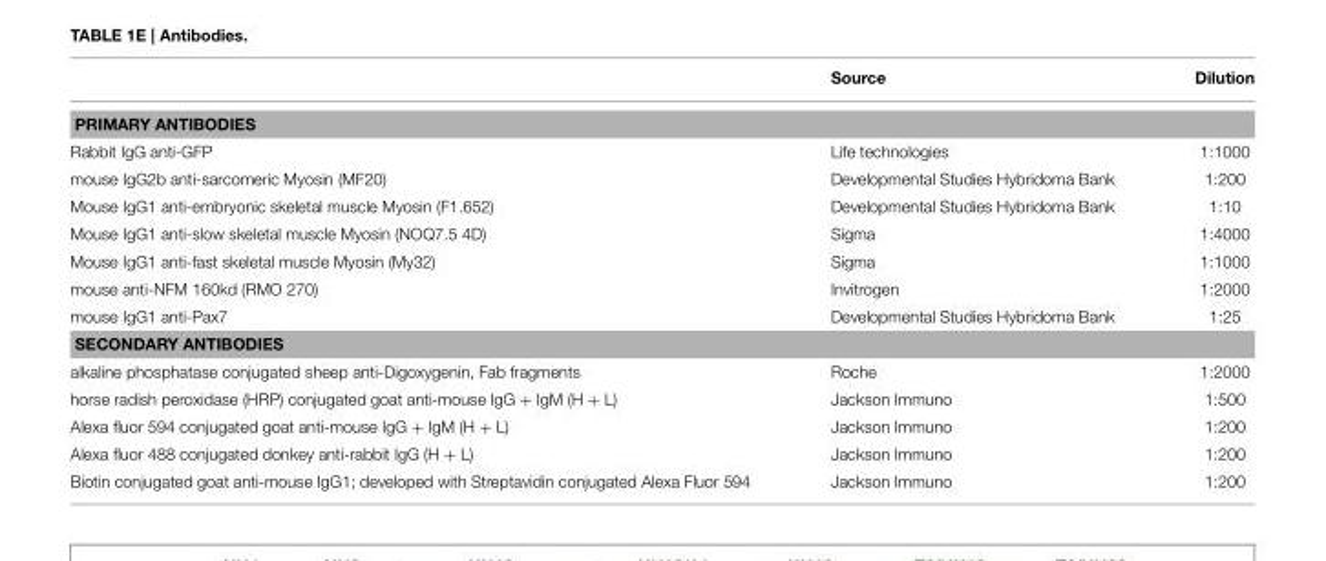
<table><thead><tr><td></td><td>Source</td><td>Dilution</td></tr></thead><tbody><tr><td colspan="3">PRIMARY ANTIBODIES</td></tr><tr><td>Rabbit IgG anti-GFP</td><td>Life technologies</td><td>1:1000</td></tr><tr><td>mouse IgG2b anti-sarcomeric Myosin (MF20)</td><td>Developmental Studies Hybridoma Bank</td><td>1:200</td></tr><tr><td>Mouse IgG1 anti-embryonic skeletal muscle Myosin (F1.652)</td><td>Developmental Studies Hybridoma Bank</td><td>1:10</td></tr><tr><td>Mouse IgG1 anti-slow skeletal muscle Myosin (NOQ7.5 4D)</td><td>Sigma</td><td>1:4000</td></tr><tr><td>Mouse IgG1 anti-fast skeletal muscle Myosin (My32)</td><td>Sigma</td><td>1:1000</td></tr><tr><td>mouse anti-NFM 160kd (RMO 270)</td><td>Invitrogen</td><td>1:2000</td></tr><tr><td>mouse IgG1 anti-Pax7</td><td>Developmental Studies Hybridoma Bank</td><td>1:25</td></tr><tr><td colspan="3">SECONDARY ANTIBODIES</td></tr><tr><td>alkaline phosphatase conjugated sheep anti-Digoxygenin, Fab fragments</td><td>Roche</td><td>1:2000</td></tr><tr><td>horse radish peroxidase (HRP) conjugated goat anti-mouse IgG + IgM (H + L)</td><td>Jackson Immuno</td><td>1:500</td></tr><tr><td>Alexa fluor 594 conjugated goat anti-mouse IgG + IgM (H + L)</td><td>Jackson Immuno</td><td>1:200</td></tr><tr><td>Alexa fluor 488 conjugated donkey anti-rabbit IgG (H + L)</td><td>Jackson Immuno</td><td>1:200</td></tr><tr><td>Biotin conjugated goat anti-mouse IgG1; developed with Streptavidin conjugated Alexa Fluor 594</td><td>Jackson Immuno</td><td>1:200</td></tr></tbody></table>